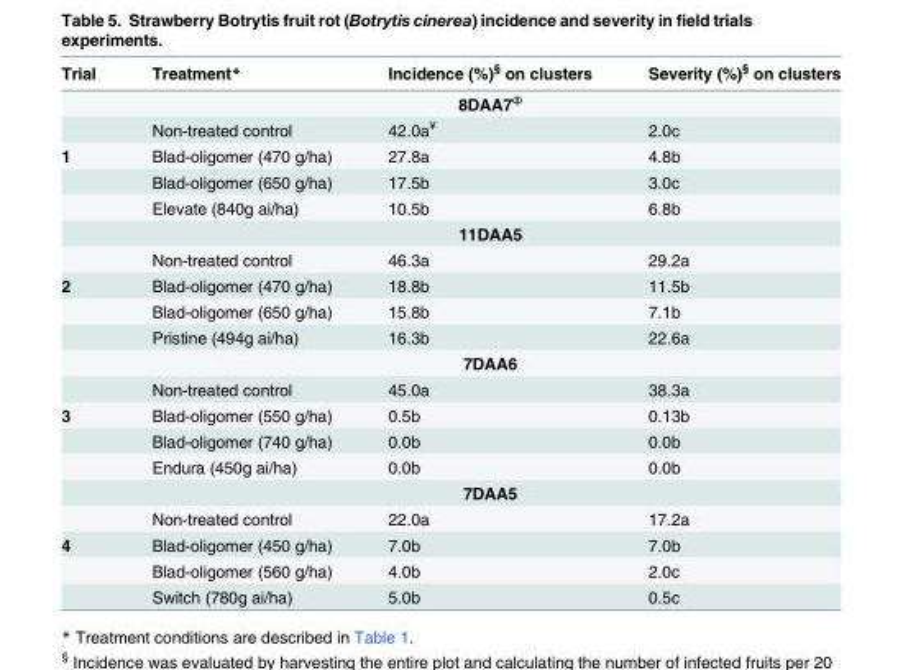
<table><thead><tr><td>Trial</td><td>Treatment*</td><td>Incidence (%)<sup>§</sup> on clusters</td><td>Severity (%)<sup>§</sup> on clusters</td></tr></thead><tbody><tr><td></td><td></td><td>8DAA7<sup>ф</sup></td><td></td></tr><tr><td></td><td>Non-treated control</td><td>42.0a<sup>¥</sup></td><td>2.0c</td></tr><tr><td rowspan="5">1</td><td>Blad-oligomer (470 g/ha)</td><td>27.8a</td><td>4.8b</td></tr><tr><td>Blad-oligomer (650 g/ha)</td><td>17.5b</td><td>3.0c</td></tr><tr><td>Elevate (840g ai/ha)</td><td>10.5b</td><td>6.8b</td></tr><tr><td></td><td>11DAA5</td><td></td></tr><tr><td>Non-treated control</td><td>46.3a</td><td>29.2a</td></tr><tr><td rowspan="5">2</td><td>Blad-oligomer (470 g/ha)</td><td>18.8b</td><td>11.5b</td></tr><tr><td>Blad-oligomer (650 g/ha)</td><td>15.8b</td><td>7.1b</td></tr><tr><td>Pristine (494g ai/ha)</td><td>16.3b</td><td>22.6a</td></tr><tr><td></td><td>7DAA6</td><td></td></tr><tr><td>Non-treated control</td><td>45.0a</td><td>38.3a</td></tr><tr><td rowspan="5">3</td><td>Blad-oligomer (550 g/ha)</td><td>0.5b</td><td>0.13b</td></tr><tr><td>Blad-oligomer (740 g/ha)</td><td>0.0b</td><td>0.0b</td></tr><tr><td>Endura (450g ai/ha)</td><td>0.0b</td><td>0.0b</td></tr><tr><td></td><td>7DAA5</td><td></td></tr><tr><td>Non-treated control</td><td>22.0a</td><td>17.2a</td></tr><tr><td rowspan="3">4</td><td>Blad-oligomer (450 g/ha)</td><td>7.0b</td><td>7.0b</td></tr><tr><td>Blad-oligomer (560 g/ha)</td><td>4.0b</td><td>2.0c</td></tr><tr><td>Switch (780g ai/ha)</td><td>5.0b</td><td>0.5c</td></tr></tbody></table>